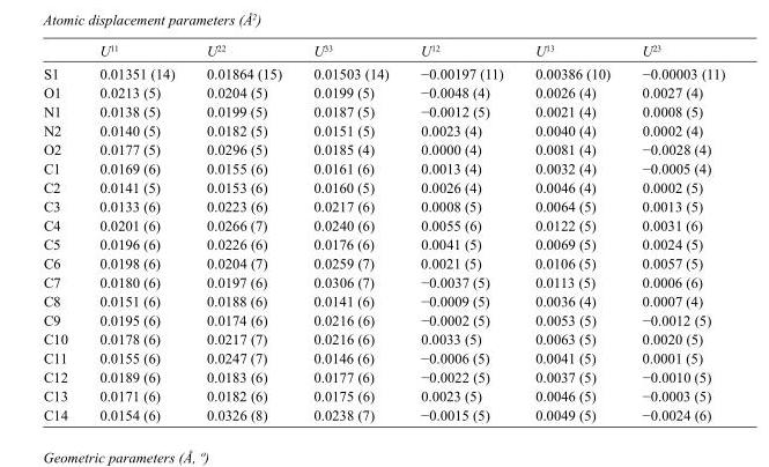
<table><thead><tr><td></td><td>U<sup>11</sup></td><td>U<sup>22</sup></td><td>U<sup>33</sup></td><td>U<sup>12</sup></td><td>U<sup>13</sup></td><td>U<sup>23</sup></td></tr></thead><tbody><tr><td>S1</td><td>0.01351 (14)</td><td>0.01864 (15)</td><td>0.01503 (14)</td><td>−0.00197 (11)</td><td>0.00386 (10)</td><td>−0.00003 (11)</td></tr><tr><td>O1</td><td>0.0213 (5)</td><td>0.0204 (5)</td><td>0.0199 (5)</td><td>−0.0048 (4)</td><td>0.0026 (4)</td><td>0.0027 (4)</td></tr><tr><td>N1</td><td>0.0138 (5)</td><td>0.0199 (5)</td><td>0.0187 (5)</td><td>−0.0012 (5)</td><td>0.0021 (4)</td><td>0.0008 (5)</td></tr><tr><td>N2</td><td>0.0140 (5)</td><td>0.0182 (5)</td><td>0.0151 (5)</td><td>0.0023 (4)</td><td>0.0040 (4)</td><td>0.0002 (4)</td></tr><tr><td>O2</td><td>0.0177 (5)</td><td>0.0296 (5)</td><td>0.0185 (4)</td><td>0.0000 (4)</td><td>0.0081 (4)</td><td>−0.0028 (4)</td></tr><tr><td>C1</td><td>0.0169 (6)</td><td>0.0155 (6)</td><td>0.0161 (6)</td><td>0.0013 (4)</td><td>0.0032 (4)</td><td>−0.0005 (4)</td></tr><tr><td>C2</td><td>0.0141 (5)</td><td>0.0153 (6)</td><td>0.0160 (5)</td><td>0.0026 (4)</td><td>0.0046 (4)</td><td>0.0002 (5)</td></tr><tr><td>C3</td><td>0.0133 (6)</td><td>0.0223 (6)</td><td>0.0217 (6)</td><td>0.0008 (5)</td><td>0.0064 (5)</td><td>0.0013 (5)</td></tr><tr><td>C4</td><td>0.0201 (6)</td><td>0.0266 (7)</td><td>0.0240 (6)</td><td>0.0055 (6)</td><td>0.0122 (5)</td><td>0.0031 (6)</td></tr><tr><td>C5</td><td>0.0196 (6)</td><td>0.0226 (6)</td><td>0.0176 (6)</td><td>0.0041 (5)</td><td>0.0069 (5)</td><td>0.0024 (5)</td></tr><tr><td>C6</td><td>0.0198 (6)</td><td>0.0204 (7)</td><td>0.0259 (7)</td><td>0.0021 (5)</td><td>0.0106 (5)</td><td>0.0057 (5)</td></tr><tr><td>C7</td><td>0.0180 (6)</td><td>0.0197 (6)</td><td>0.0306 (7)</td><td>−0.0037 (5)</td><td>0.0113 (5)</td><td>0.0006 (6)</td></tr><tr><td>C8</td><td>0.0151 (6)</td><td>0.0188 (6)</td><td>0.0141 (6)</td><td>−0.0009 (5)</td><td>0.0036 (4)</td><td>0.0007 (4)</td></tr><tr><td>C9</td><td>0.0195 (6)</td><td>0.0174 (6)</td><td>0.0216 (6)</td><td>−0.0002 (5)</td><td>0.0053 (5)</td><td>−0.0012 (5)</td></tr><tr><td>C10</td><td>0.0178 (6)</td><td>0.0217 (7)</td><td>0.0216 (6)</td><td>0.0033 (5)</td><td>0.0063 (5)</td><td>0.0020 (5)</td></tr><tr><td>C11</td><td>0.0155 (6)</td><td>0.0247 (7)</td><td>0.0146 (6)</td><td>−0.0006 (5)</td><td>0.0041 (5)</td><td>0.0001 (5)</td></tr><tr><td>C12</td><td>0.0189 (6)</td><td>0.0183 (6)</td><td>0.0177 (6)</td><td>−0.0022 (5)</td><td>0.0037 (5)</td><td>−0.0010 (5)</td></tr><tr><td>C13</td><td>0.0171 (6)</td><td>0.0182 (6)</td><td>0.0175 (6)</td><td>0.0023 (5)</td><td>0.0046 (5)</td><td>−0.0003 (5)</td></tr><tr><td>C14</td><td>0.0154 (6)</td><td>0.0326 (8)</td><td>0.0238 (7)</td><td>−0.0015 (5)</td><td>0.0049 (5)</td><td>−0.0024 (6)</td></tr></tbody></table>